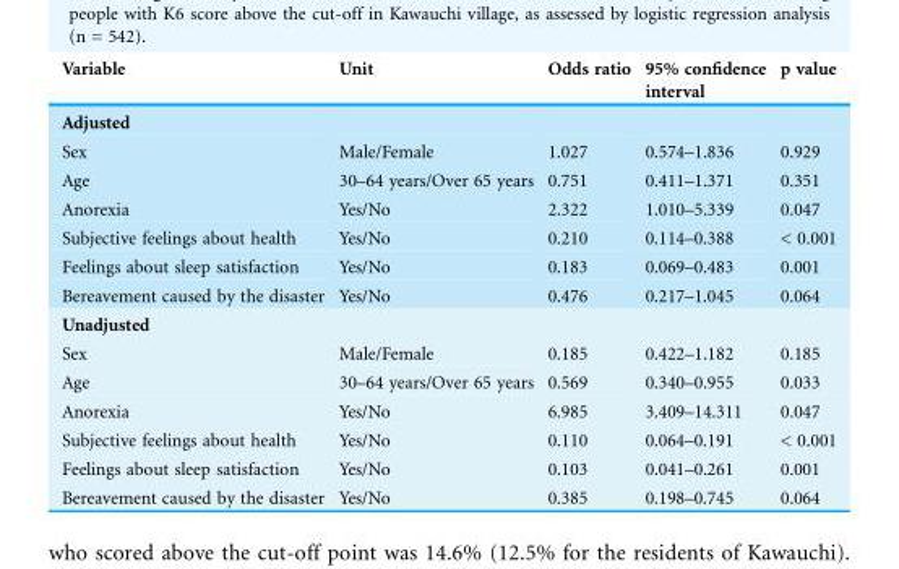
<table><thead><tr><td>Variable</td><td>Unit</td><td>Odds ratio</td><td>95% confidence interval</td><td>p value</td></tr></thead><tbody><tr><td colspan="5">Adjusted</td></tr><tr><td>Sex</td><td>Male/Female</td><td>1.027</td><td>0.574–1.836</td><td>0.929</td></tr><tr><td>Age</td><td>30–64 years/Over 65 years</td><td>0.751</td><td>0.411–1.371</td><td>0.351</td></tr><tr><td>Anorexia</td><td>Yes/No</td><td>2.322</td><td>1.010–5.339</td><td>0.047</td></tr><tr><td>Subjective feelings about health</td><td>Yes/No</td><td>0.210</td><td>0.114–0.388</td><td>&lt; 0.001</td></tr><tr><td>Feelings about sleep satisfaction</td><td>Yes/No</td><td>0.183</td><td>0.069–0.483</td><td>0.001</td></tr><tr><td>Bereavement caused by the disaster</td><td>Yes/No</td><td>0.476</td><td>0.217–1.045</td><td>0.064</td></tr><tr><td colspan="5">Unadjusted</td></tr><tr><td>Sex</td><td>Male/Female</td><td>0.185</td><td>0.422–1.182</td><td>0.185</td></tr><tr><td>Age</td><td>30–64 years/Over 65 years</td><td>0.569</td><td>0.340–0.955</td><td>0.033</td></tr><tr><td>Anorexia</td><td>Yes/No</td><td>6.985</td><td>3.409–14.311</td><td>0.047</td></tr><tr><td>Subjective feelings about health</td><td>Yes/No</td><td>0.110</td><td>0.064–0.191</td><td>&lt; 0.001</td></tr><tr><td>Feelings about sleep satisfaction</td><td>Yes/No</td><td>0.103</td><td>0.041–0.261</td><td>0.001</td></tr><tr><td>Bereavement caused by the disaster</td><td>Yes/No</td><td>0.385</td><td>0.198–0.745</td><td>0.064</td></tr></tbody></table>